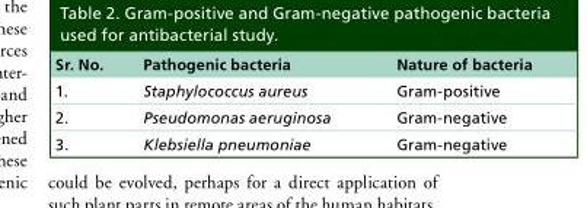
<table><thead><tr><td>Sr. No.</td><td>Pathogenic bacteria</td><td>Nature of bacteria</td></tr></thead><tbody><tr><td>1.</td><td>Staphylococcus aureus</td><td>Gram-positive</td></tr><tr><td>2.</td><td>Pseudomonas aeruginosa</td><td>Gram-negative</td></tr><tr><td>3.</td><td>Klebsiella pneumoniae</td><td>Gram-negative</td></tr></tbody></table>